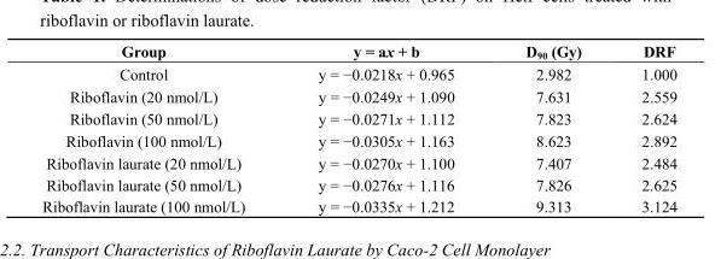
<table><thead><tr><td>Group</td><td>y = ax + b</td><td>D<sub>90</sub> (Gy)</td><td>DRF</td></tr></thead><tbody><tr><td>Control</td><td>y = −0.0218x + 0.965</td><td>2.982</td><td>1.000</td></tr><tr><td>Riboflavin (20 nmol/L)</td><td>y = −0.0249x + 1.090</td><td>7.631</td><td>2.559</td></tr><tr><td>Riboflavin (50 nmol/L)</td><td>y = −0.0271x + 1.112</td><td>7.823</td><td>2.624</td></tr><tr><td>Riboflavin (100 nmol/L)</td><td>y = −0.0305x + 1.163</td><td>8.623</td><td>2.892</td></tr><tr><td>Riboflavin laurate (20 nmol/L)</td><td>y = −0.0270x + 1.100</td><td>7.407</td><td>2.484</td></tr><tr><td>Riboflavin laurate (50 nmol/L)</td><td>y = −0.0276x + 1.116</td><td>7.826</td><td>2.625</td></tr><tr><td>Riboflavin laurate (100 nmol/L)</td><td>y = −0.0335x + 1.212</td><td>9.313</td><td>3.124</td></tr></tbody></table>